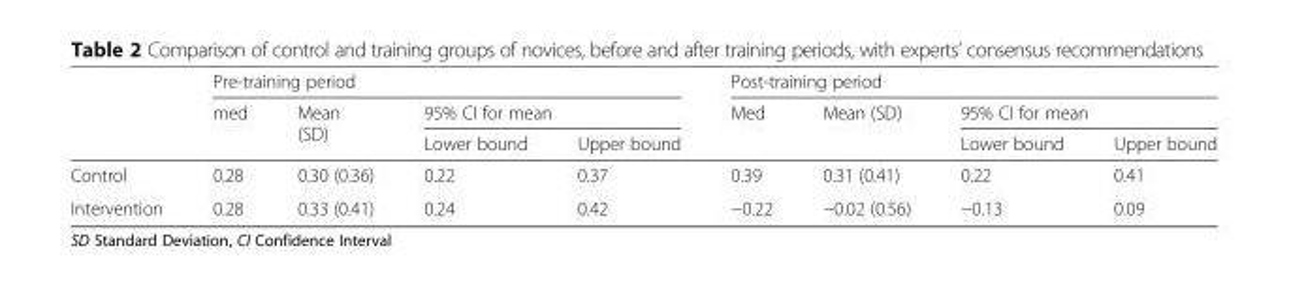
<table><thead><tr><td rowspan="3"></td><td colspan="4">Pre-training period</td><td colspan="4">Post-training period</td></tr><tr><td rowspan="2">med</td><td rowspan="2">Mean (SD)</td><td colspan="2">95% CI for mean</td><td rowspan="2">Med</td><td rowspan="2">Mean (SD)</td><td colspan="2">95% CI for mean</td></tr><tr><td>Lower bound</td><td>Upper bound</td><td>Lower bound</td><td>Upper bound</td></tr></thead><tbody><tr><td>Control</td><td>0.28</td><td>0.30 (0.36)</td><td>0.22</td><td>0.37</td><td>0.39</td><td>0.31 (0.41)</td><td>0.22</td><td>0.41</td></tr><tr><td>Intervention</td><td>0.28</td><td>0.33 (0.41)</td><td>0.24</td><td>0.42</td><td>−0.22</td><td>−0.02 (0.56)</td><td>−0.13</td><td>0.09</td></tr></tbody></table>